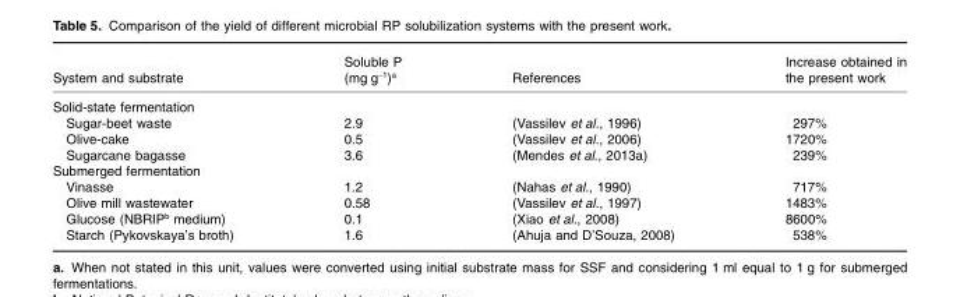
<table><thead><tr><td>System and substrate</td><td>Soluble P (mg g<sup>−1</sup>)<sup>a</sup></td><td>References</td><td>Increase obtained in the present work</td></tr></thead><tbody><tr><td colspan="4">Solid-state fermentation</td></tr><tr><td>Sugar-beet waste</td><td>2.9</td><td>(Vassilev et al., 1996)</td><td>297%</td></tr><tr><td>Olive-cake</td><td>0.5</td><td>(Vassilev et al., 2006)</td><td>1720%</td></tr><tr><td>Sugarcane bagasse</td><td>3.6</td><td>(Mendes et al., 2013a)</td><td>239%</td></tr><tr><td colspan="4">Submerged fermentation</td></tr><tr><td>Vinasse</td><td>1.2</td><td>(Nahas et al., 1990)</td><td>717%</td></tr><tr><td>Olive mill wastewater</td><td>0.58</td><td>(Vassilev et al., 1997)</td><td>1483%</td></tr><tr><td>Glucose (NBRIP<sup>b</sup> medium)</td><td>0.1</td><td>(Xiao et al., 2008)</td><td>8600%</td></tr><tr><td>Starch (Pykovskaya’s broth)</td><td>1.6</td><td>(Ahuja and D’Souza, 2008)</td><td>538%</td></tr></tbody></table>